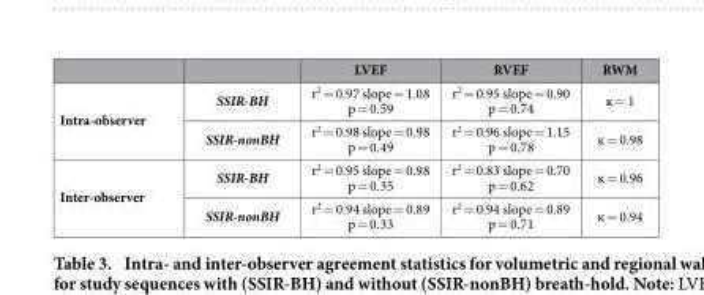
<table><thead><tr><td></td><td></td><td>LVEF</td><td>RVEF</td><td>RWM</td></tr></thead><tbody><tr><td rowspan="2">Intra-observer</td><td>SSIR-BH</td><td>r<sup>2</sup> = 0.97 slope = 1.08 p = 0.59</td><td>r<sup>2</sup> = 0.95 slope = 0.90 p = 0.74</td><td>ĸ = 1</td></tr><tr><td>SSIR-nonBH</td><td>r<sup>2</sup> = 0.98 slope = 0.98 p = 0.49</td><td>r<sup>2</sup> = 0.96 slope = 1.15 p = 0.78</td><td>ĸ = 0.98</td></tr><tr><td rowspan="2">Inter-observer</td><td>SSIR-BH</td><td>r<sup>2</sup> = 0.95 slope = 0.98 p = 0.35</td><td>r<sup>2</sup> = 0.83 slope = 0.70 p = 0.62</td><td>ĸ = 0.96</td></tr><tr><td>SSIR-nonBH</td><td>r<sup>2</sup> = 0.94 slope = 0.89 p = 0.33</td><td>r<sup>2</sup> = 0.94 slope = 0.89 p = 0.71</td><td>ĸ = 0.94</td></tr></tbody></table>